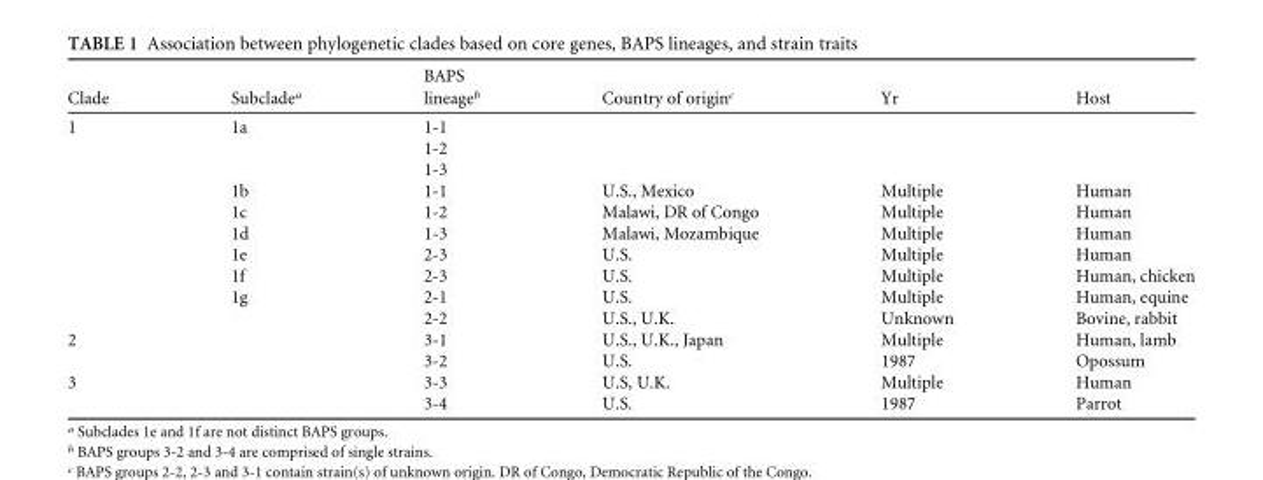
<table><thead><tr><td>Clade</td><td>Subclade<sup>a</sup></td><td>BAPS lineage<sup>b</sup></td><td>Country of origin<sup>c</sup></td><td>Yr</td><td>Host</td></tr></thead><tbody><tr><td rowspan="10">1</td><td>1a</td><td>1-1</td><td></td><td></td><td></td></tr><tr><td></td><td>1-2</td><td></td><td></td><td></td></tr><tr><td></td><td>1-3</td><td></td><td></td><td></td></tr><tr><td>1b</td><td>1-1</td><td>U.S., Mexico</td><td>Multiple</td><td>Human</td></tr><tr><td>1c</td><td>1-2</td><td>Malawi, DR of Congo</td><td>Multiple</td><td>Human</td></tr><tr><td>1d</td><td>1-3</td><td>Malawi, Mozambique</td><td>Multiple</td><td>Human</td></tr><tr><td>1e</td><td>2-3</td><td>U.S.</td><td>Multiple</td><td>Human</td></tr><tr><td>1f</td><td>2-3</td><td>U.S.</td><td>Multiple</td><td>Human, chicken</td></tr><tr><td>1g</td><td>2-1</td><td>U.S.</td><td>Multiple</td><td>Human, equine</td></tr><tr><td></td><td>2-2</td><td>U.S., U.K.</td><td>Unknown</td><td>Bovine, rabbit</td></tr><tr><td rowspan="2">2</td><td></td><td>3-1</td><td>U.S., U.K., Japan</td><td>Multiple</td><td>Human, lamb</td></tr><tr><td></td><td>3-2</td><td>U.S.</td><td>1987</td><td>Opossum</td></tr><tr><td rowspan="2">3</td><td></td><td>3-3</td><td>U.S, U.K.</td><td>Multiple</td><td>Human</td></tr><tr><td></td><td>3-4</td><td>U.S.</td><td>1987</td><td>Parrot</td></tr></tbody></table>